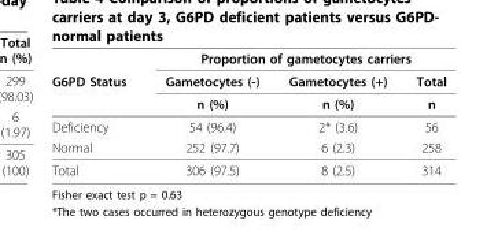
<table><thead><tr><td rowspan="3">G6PD Status</td><td colspan="3">Proportion of gametocytes carriers</td></tr><tr><td rowspan="2">Gametocytes (-) n (%)</td><td rowspan="2">Gametocytes (+) n (%)</td><td rowspan="2">Total n</td></tr><tr></tr></thead><tbody><tr><td>Deficiency</td><td>54 (96.4)</td><td>2* (3.6)</td><td>56</td></tr><tr><td>Normal</td><td>252 (97.7)</td><td>6 (2.3)</td><td>258</td></tr><tr><td>Total</td><td>306 (97.5)</td><td>8 (2.5)</td><td>314</td></tr></tbody></table>